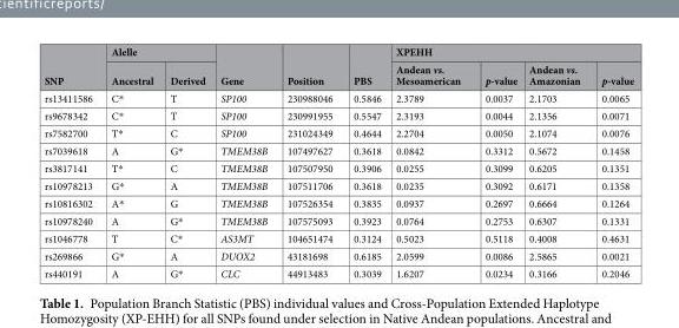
<table><thead><tr><td rowspan="2">SNP</td><td colspan="2">Alelle</td><td rowspan="2">Gene</td><td rowspan="2">Position</td><td rowspan="2">PBS</td><td colspan="4">XPEHH</td></tr><tr><td>Ancestral</td><td>Derived</td><td>Andean vs. Mesoamerican</td><td>p-value</td><td>Andean vs. Amazonian</td><td>p-value</td></tr></thead><tbody><tr><td>rs13411586</td><td>C*</td><td>T</td><td>SP100</td><td>230988046</td><td>0.5846</td><td>2.3789</td><td>0.0037</td><td>2.1703</td><td>0.0065</td></tr><tr><td>rs9678342</td><td>C*</td><td>T</td><td>SP100</td><td>230991955</td><td>0.5547</td><td>2.3193</td><td>0.0044</td><td>2.1356</td><td>0.0071</td></tr><tr><td>rs7582700</td><td>T*</td><td>C</td><td>SP100</td><td>231024349</td><td>0.4644</td><td>2.2704</td><td>0.0050</td><td>2.1074</td><td>0.0076</td></tr><tr><td>rs7039618</td><td>A</td><td>G*</td><td>TMEM38B</td><td>107497627</td><td>0.3618</td><td>0.0842</td><td>0.3312</td><td>0.5672</td><td>0.1458</td></tr><tr><td>rs3817141</td><td>T*</td><td>C</td><td>TMEM38B</td><td>107507950</td><td>0.3906</td><td>0.0255</td><td>0.3099</td><td>0.6205</td><td>0.1351</td></tr><tr><td>rs10978213</td><td>G*</td><td>A</td><td>TMEM38B</td><td>107511706</td><td>0.3618</td><td>0.0235</td><td>0.3092</td><td>0.6171</td><td>0.1358</td></tr><tr><td>rs10816302</td><td>A*</td><td>G</td><td>TMEM38B</td><td>107526354</td><td>0.3835</td><td>0.0937</td><td>0.2697</td><td>0.6664</td><td>0.1264</td></tr><tr><td>rs10978240</td><td>A</td><td>G*</td><td>TMEM38B</td><td>107575093</td><td>0.3923</td><td>0.0764</td><td>0.2753</td><td>0.6307</td><td>0.1331</td></tr><tr><td>rs1046778</td><td>T</td><td>C*</td><td>AS3MT</td><td>104651474</td><td>0.3124</td><td>0.5023</td><td>0.5118</td><td>0.4008</td><td>0.4631</td></tr><tr><td>rs269866</td><td>G*</td><td>A</td><td>DUOX2</td><td>43181698</td><td>0.6185</td><td>2.0599</td><td>0.0086</td><td>2.5865</td><td>0.0021</td></tr><tr><td>rs440191</td><td>A</td><td>G*</td><td>CLC</td><td>44913483</td><td>0.3039</td><td>1.6207</td><td>0.0234</td><td>0.3166</td><td>0.2046</td></tr></tbody></table>